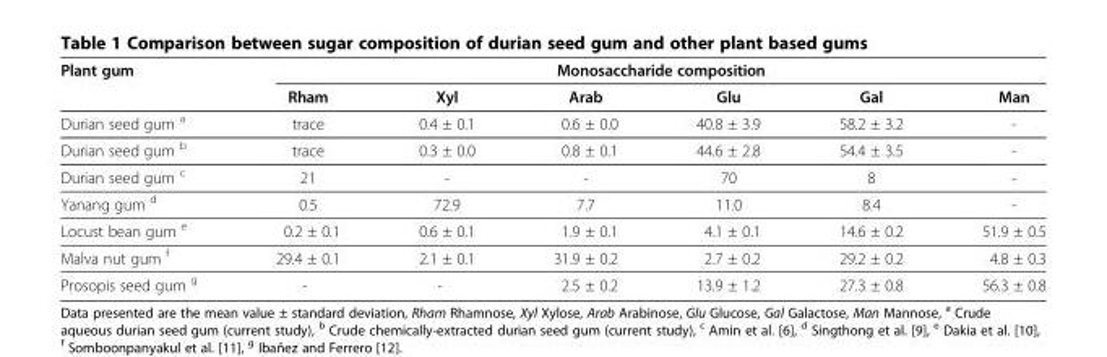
<table><thead><tr><td rowspan="2">Plant gum</td><td colspan="6">Monosaccharide composition</td></tr><tr><td>Rham</td><td>Xyl</td><td>Arab</td><td>Glu</td><td>Gal</td><td>Man</td></tr></thead><tbody><tr><td>Durian seed gum <sup>a</sup></td><td>trace</td><td>0.4 ± 0.1</td><td>0.6 ± 0.0</td><td>40.8 ± 3.9</td><td>58.2 ± 3.2</td><td>-</td></tr><tr><td>Durian seed gum <sup>b</sup></td><td>trace</td><td>0.3 ± 0.0</td><td>0.8 ± 0.1</td><td>44.6 ± 2.8</td><td>54.4 ± 3.5</td><td>-</td></tr><tr><td>Durian seed gum <sup>c</sup></td><td>21</td><td>-</td><td>-</td><td>70</td><td>8</td><td>-</td></tr><tr><td>Yanang gum <sup>d</sup></td><td>0.5</td><td>72.9</td><td>7.7</td><td>11.0</td><td>8.4</td><td>-</td></tr><tr><td>Locust bean gum <sup>e</sup></td><td>0.2 ± 0.1</td><td>0.6 ± 0.1</td><td>1.9 ± 0.1</td><td>4.1 ± 0.1</td><td>14.6 ± 0.2</td><td>51.9 ± 0.5</td></tr><tr><td>Malva nut gum <sup>f</sup></td><td>29.4 ± 0.1</td><td>2.1 ± 0.1</td><td>31.9 ± 0.2</td><td>2.7 ± 0.2</td><td>29.2 ± 0.2</td><td>4.8 ± 0.3</td></tr><tr><td>Prosopis seed gum <sup>g</sup></td><td>-</td><td>-</td><td>2.5 ± 0.2</td><td>13.9 ± 1.2</td><td>27.3 ± 0.8</td><td>56.3 ± 0.8</td></tr></tbody></table>